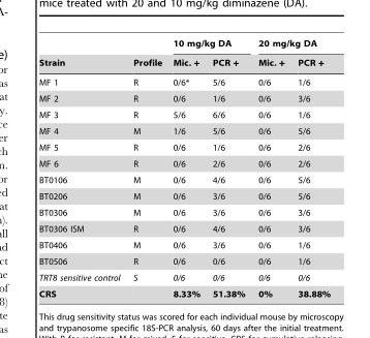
<table><thead><tr><td rowspan="2">Strain</td><td rowspan="2">Profile</td><td colspan="2">10 mg/kg DA</td><td colspan="2">20 mg/kg DA</td></tr><tr><td>Mic. +</td><td>PCR +</td><td>Mic. +</td><td>PCR +</td></tr></thead><tbody><tr><td>MF 1</td><td>R</td><td>0/6*</td><td>5/6</td><td>0/6</td><td>1/6</td></tr><tr><td>MF 2</td><td>R</td><td>0/6</td><td>1/6</td><td>0/6</td><td>3/6</td></tr><tr><td>MF 3</td><td>R</td><td>5/6</td><td>6/6</td><td>0/6</td><td>1/6</td></tr><tr><td>MF 4</td><td>M</td><td>1/6</td><td>5/6</td><td>0/6</td><td>5/6</td></tr><tr><td>MF 5</td><td>R</td><td>0/6</td><td>1/6</td><td>0/6</td><td>2/6</td></tr><tr><td>MF 6</td><td>R</td><td>0/6</td><td>2/6</td><td>0/6</td><td>2/6</td></tr><tr><td>BT0106</td><td>M</td><td>0/6</td><td>4/6</td><td>0/6</td><td>5/6</td></tr><tr><td>BT0206</td><td>M</td><td>0/6</td><td>3/6</td><td>0/6</td><td>5/6</td></tr><tr><td>BT0306</td><td>M</td><td>0/6</td><td>3/6</td><td>0/6</td><td>3/6</td></tr><tr><td>BT0306 ISM</td><td>R</td><td>0/6</td><td>4/6</td><td>0/6</td><td>3/6</td></tr><tr><td>BT0406</td><td>M</td><td>0/6</td><td>3/6</td><td>0/6</td><td>1/6</td></tr><tr><td>BT0506</td><td>R</td><td>0/6</td><td>0/6</td><td>0/6</td><td>1/6</td></tr><tr><td>TRT8 sensitive control</td><td>S</td><td>0/6</td><td>0/6</td><td>0/6</td><td>0/6</td></tr><tr><td>CRS</td><td></td><td>8.33%</td><td>51.38%</td><td>0%</td><td>38.88%</td></tr></tbody></table>